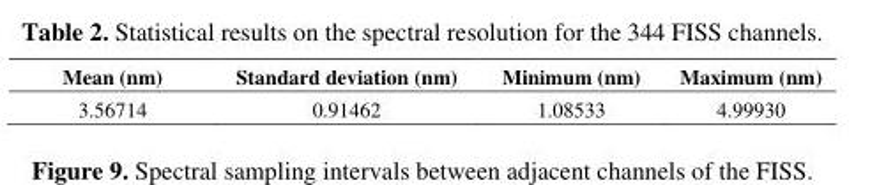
<table><thead><tr><td>Mean (nm)</td><td>Standard deviation (nm)</td><td>Minimum (nm)</td><td>Maximum (nm)</td></tr></thead><tbody><tr><td>3.56714</td><td>0.91462</td><td>1.08533</td><td>4.99930</td></tr></tbody></table>